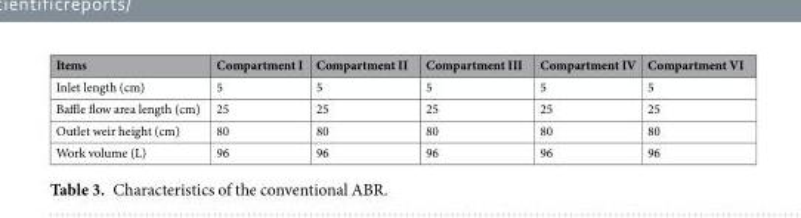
<table><thead><tr><td>Items</td><td>Compartment I</td><td>Compartment II</td><td>Compartment III</td><td>Compartment IV</td><td>Compartment VI</td></tr></thead><tbody><tr><td>Inlet length (cm)</td><td>5</td><td>5</td><td>5</td><td>5</td><td>5</td></tr><tr><td>Baffle flow area length (cm)</td><td>25</td><td>25</td><td>25</td><td>25</td><td>25</td></tr><tr><td>Outlet weir height (cm)</td><td>80</td><td>80</td><td>80</td><td>80</td><td>80</td></tr><tr><td>Work volume (L)</td><td>96</td><td>96</td><td>96</td><td>96</td><td>96</td></tr></tbody></table>